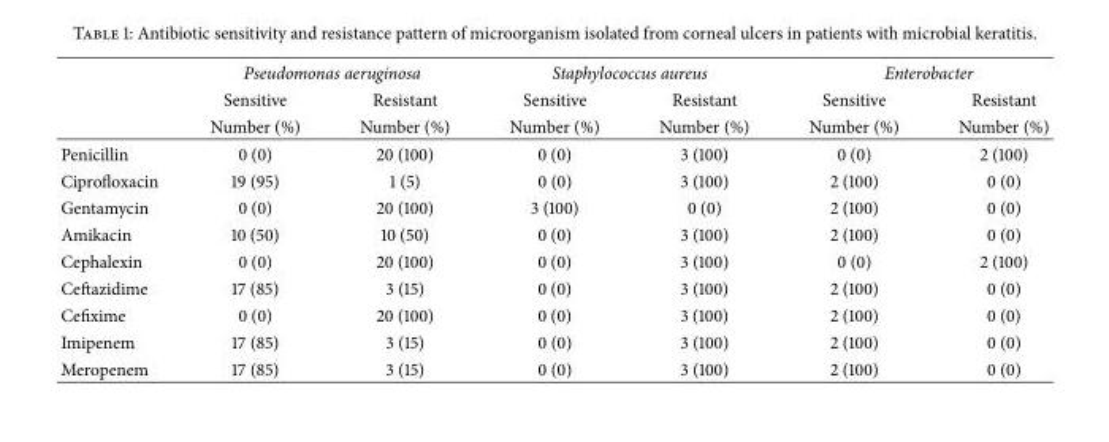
<table><thead><tr><td rowspan="3"></td><td colspan="2">Pseudomonas aeruginosa</td><td colspan="2">Staphylococcus aureus</td><td colspan="2">Enterobacter</td></tr><tr><td rowspan="2">Sensitive Number (%)</td><td rowspan="2">Resistant Number (%)</td><td rowspan="2">Sensitive Number (%)</td><td rowspan="2">Resistant Number (%)</td><td rowspan="2">Sensitive Number (%)</td><td rowspan="2">Resistant Number (%)</td></tr><tr></tr></thead><tbody><tr><td>Penicillin</td><td>0 (0)</td><td>20 (100)</td><td>0 (0)</td><td>3 (100)</td><td>0 (0)</td><td>2 (100)</td></tr><tr><td>Ciprofloxacin</td><td>19 (95)</td><td>1 (5)</td><td>0 (0)</td><td>3 (100)</td><td>2 (100)</td><td>0 (0)</td></tr><tr><td>Gentamycin</td><td>0 (0)</td><td>20 (100)</td><td>3 (100)</td><td>0 (0)</td><td>2 (100)</td><td>0 (0)</td></tr><tr><td>Amikacin</td><td>10 (50)</td><td>10 (50)</td><td>0 (0)</td><td>3 (100)</td><td>2 (100)</td><td>0 (0)</td></tr><tr><td>Cephalexin</td><td>0 (0)</td><td>20 (100)</td><td>0 (0)</td><td>3 (100)</td><td>0 (0)</td><td>2 (100)</td></tr><tr><td>Ceftazidime</td><td>17 (85)</td><td>3 (15)</td><td>0 (0)</td><td>3 (100)</td><td>2 (100)</td><td>0 (0)</td></tr><tr><td>Cefixime</td><td>0 (0)</td><td>20 (100)</td><td>0 (0)</td><td>3 (100)</td><td>2 (100)</td><td>0 (0)</td></tr><tr><td>Imipenem</td><td>17 (85)</td><td>3 (15)</td><td>0 (0)</td><td>3 (100)</td><td>2 (100)</td><td>0 (0)</td></tr><tr><td>Meropenem</td><td>17 (85)</td><td>3 (15)</td><td>0 (0)</td><td>3 (100)</td><td>2 (100)</td><td>0 (0)</td></tr></tbody></table>